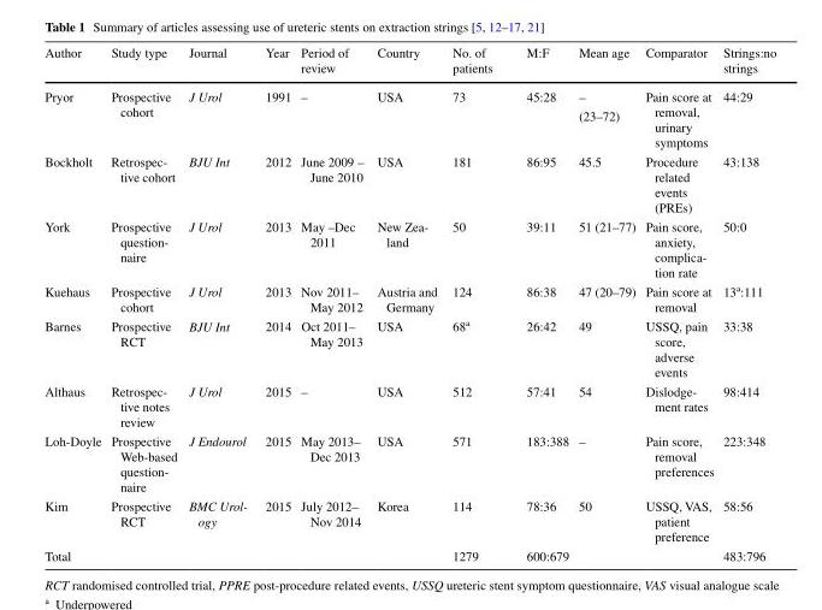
<table><thead><tr><td>Author</td><td>Study type</td><td>Journal</td><td>Year</td><td>Period of review</td><td>Country</td><td>No. of patients</td><td>M:F</td><td>Mean age</td><td>Comparator</td><td>Strings:no strings</td></tr></thead><tbody><tr><td rowspan="2">Pryor</td><td rowspan="2">Prospective cohort</td><td rowspan="2">J Urol</td><td rowspan="2">1991</td><td rowspan="2">–</td><td rowspan="2">USA</td><td rowspan="2">73</td><td rowspan="2">45:28</td><td>–</td><td rowspan="2">Pain score at removal, urinary symptoms</td><td rowspan="2">44:29</td></tr><tr><td>(23–72)</td></tr><tr><td>Bockholt</td><td>Retrospec- tive cohort</td><td>BJU Int</td><td>2012</td><td>June 2009 – June 2010</td><td>USA</td><td>181</td><td>86:95</td><td>45.5</td><td>Procedure related events (PREs)</td><td>43:138</td></tr><tr><td>York</td><td>Prospective question- naire</td><td>J Urol</td><td>2013</td><td>May –Dec 2011</td><td>New Zea- land</td><td>50</td><td>39:11</td><td>51 (21–77)</td><td>Pain score, anxiety, complica- tion rate</td><td>50:0</td></tr><tr><td>Kuehaus</td><td>Prospective cohort</td><td>J Urol</td><td>2013</td><td>Nov 2011– May 2012</td><td>Austria and Germany</td><td>124</td><td>86:38</td><td>47 (20–79)</td><td>Pain score at removal</td><td>13<sup>a</sup>:111</td></tr><tr><td>Barnes</td><td>Prospective RCT</td><td>BJU Int</td><td>2014</td><td>Oct 2011– May 2013</td><td>USA</td><td>68<sup>a</sup></td><td>26:42</td><td>49</td><td>USSQ, pain score, adverse events</td><td>33:38</td></tr><tr><td>Althaus</td><td>Retrospec- tive notes review</td><td>J Urol</td><td>2015</td><td>–</td><td>USA</td><td>512</td><td>57:41</td><td>54</td><td>Dislodge- ment rates</td><td>98:414</td></tr><tr><td>Loh-Doyle</td><td>Prospective Web-based question- naire</td><td>J Endourol</td><td>2015</td><td>May 2013– Dec 2013</td><td>USA</td><td>571</td><td>183:388</td><td>–</td><td>Pain score, removal preferences</td><td>223:348</td></tr><tr><td>Kim</td><td>Prospective RCT</td><td>BMC Urol- ogy</td><td>2015</td><td>July 2012– Nov 2014</td><td>Korea</td><td>114</td><td>78:36</td><td>50</td><td>USSQ, VAS, patient preference</td><td>58:56</td></tr><tr><td colspan="6">Total</td><td>1279</td><td>600:679</td><td></td><td></td><td>483:796</td></tr></tbody></table>